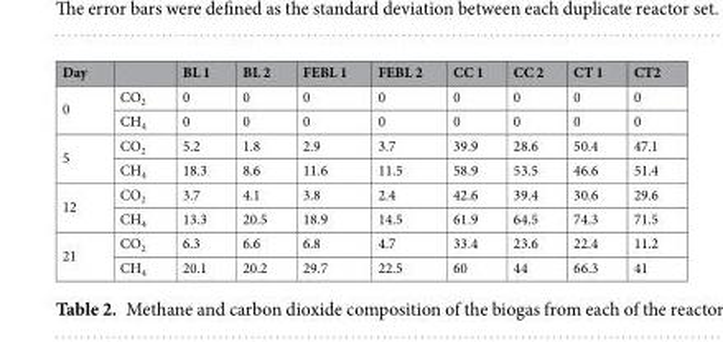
<table><thead><tr><td>Day</td><td></td><td>BL 1</td><td>BL 2</td><td>FEBL 1</td><td>FEBL 2</td><td>CC 1</td><td>CC 2</td><td>CT 1</td><td>CT2</td></tr></thead><tbody><tr><td rowspan="2">0</td><td>CO<sub>2</sub></td><td>0</td><td>0</td><td>0</td><td>0</td><td>0</td><td>0</td><td>0</td><td>0</td></tr><tr><td>CH<sub>4</sub></td><td>0</td><td>0</td><td>0</td><td>0</td><td>0</td><td>0</td><td>0</td><td>0</td></tr><tr><td rowspan="2">5</td><td>CO<sub>2</sub></td><td>5.2</td><td>1.8</td><td>2.9</td><td>3.7</td><td>39.9</td><td>28.6</td><td>50.4</td><td>47.1</td></tr><tr><td>CH<sub>4</sub></td><td>18.3</td><td>8.6</td><td>11.6</td><td>11.5</td><td>58.9</td><td>53.5</td><td>46.6</td><td>51.4</td></tr><tr><td rowspan="2">12</td><td>CO<sub>2</sub></td><td>3.7</td><td>4.1</td><td>3.8</td><td>2.4</td><td>42.6</td><td>39.4</td><td>30.6</td><td>29.6</td></tr><tr><td>CH<sub>4</sub></td><td>13.3</td><td>20.5</td><td>18.9</td><td>14.5</td><td>61.9</td><td>64.5</td><td>74.3</td><td>71.5</td></tr><tr><td rowspan="2">21</td><td>CO<sub>2</sub></td><td>6.3</td><td>6.6</td><td>6.8</td><td>4.7</td><td>33.4</td><td>23.6</td><td>22.4</td><td>11.2</td></tr><tr><td>CH<sub>4</sub></td><td>20.1</td><td>20.2</td><td>29.7</td><td>22.5</td><td>60</td><td>44</td><td>66.3</td><td>41</td></tr></tbody></table>